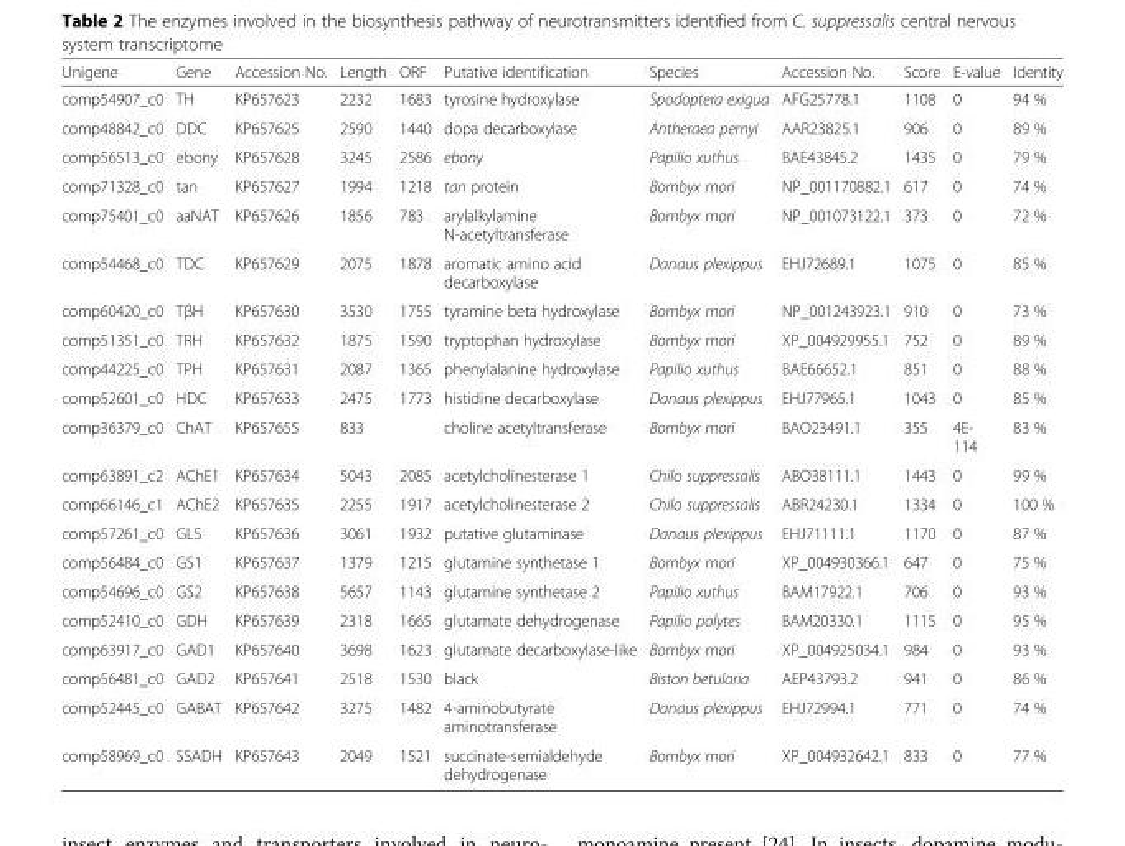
<table><thead><tr><td>Unigene</td><td>Gene</td><td>Accession No.</td><td>Length</td><td>ORF</td><td>Putative identification</td><td>Species</td><td>Accession No.</td><td>Score</td><td>E-value</td><td>Identity</td></tr></thead><tbody><tr><td>comp54907_c0</td><td>TH</td><td>KP657623</td><td>2232</td><td>1683</td><td>tyrosine hydroxylase</td><td>Spodoptera exigua</td><td>AFG25778.1</td><td>1108</td><td>0</td><td>94 %</td></tr><tr><td>comp48842_c0</td><td>DDC</td><td>KP657625</td><td>2590</td><td>1440</td><td>dopa decarboxylase</td><td>Antheraea pernyi</td><td>AAR23825.1</td><td>906</td><td>0</td><td>89 %</td></tr><tr><td>comp56513_c0</td><td>ebony</td><td>KP657628</td><td>3245</td><td>2586</td><td>ebony</td><td>Papilio xuthus</td><td>BAE43845.2</td><td>1435</td><td>0</td><td>79 %</td></tr><tr><td>comp71328_c0</td><td>tan</td><td>KP657627</td><td>1994</td><td>1218</td><td>tan protein</td><td>Bombyx mori</td><td>NP_001170882.1</td><td>617</td><td>0</td><td>74 %</td></tr><tr><td>comp75401_c0</td><td>aaNAT</td><td>KP657626</td><td>1856</td><td>783</td><td>arylalkylamine N-acetyltransferase</td><td>Bombyx mori</td><td>NP_001073122.1</td><td>373</td><td>0</td><td>72 %</td></tr><tr><td>comp54468_c0</td><td>TDC</td><td>KP657629</td><td>2075</td><td>1878</td><td>aromatic amino acid decarboxylase</td><td>Danaus plexippus</td><td>EHJ72689.1</td><td>1075</td><td>0</td><td>85 %</td></tr><tr><td>comp60420_c0</td><td>TβH</td><td>KP657630</td><td>3530</td><td>1755</td><td>tyramine beta hydroxylase</td><td>Bombyx mori</td><td>NP_001243923.1</td><td>910</td><td>0</td><td>73 %</td></tr><tr><td>comp51351_c0</td><td>TRH</td><td>KP657632</td><td>1875</td><td>1590</td><td>tryptophan hydroxylase</td><td>Bombyx mori</td><td>XP_004929955.1</td><td>752</td><td>0</td><td>89 %</td></tr><tr><td>comp44225_c0</td><td>TPH</td><td>KP657631</td><td>2087</td><td>1365</td><td>phenylalanine hydroxylase</td><td>Papilio xuthus</td><td>BAE66652.1</td><td>851</td><td>0</td><td>88 %</td></tr><tr><td>comp52601_c0</td><td>HDC</td><td>KP657633</td><td>2475</td><td>1773</td><td>histidine decarboxylase</td><td>Danaus plexippus</td><td>EHJ77965.1</td><td>1043</td><td>0</td><td>85 %</td></tr><tr><td>comp36379_c0</td><td>ChAT</td><td>KP657655</td><td>833</td><td></td><td>choline acetyltransferase</td><td>Bombyx mori</td><td>BAO23491.1</td><td>355</td><td>4E- 114</td><td>83 %</td></tr><tr><td>comp63891_c2</td><td>AChE1</td><td>KP657634</td><td>5043</td><td>2085</td><td>acetylcholinesterase 1</td><td>Chilo suppressalis</td><td>ABO38111.1</td><td>1443</td><td>0</td><td>99 %</td></tr><tr><td>comp66146_c1</td><td>AChE2</td><td>KP657635</td><td>2255</td><td>1917</td><td>acetylcholinesterase 2</td><td>Chilo suppressalis</td><td>ABR24230.1</td><td>1334</td><td>0</td><td>100 %</td></tr><tr><td>comp57261_c0</td><td>GLS</td><td>KP657636</td><td>3061</td><td>1932</td><td>putative glutaminase</td><td>Danaus plexippus</td><td>EHJ71111.1</td><td>1170</td><td>0</td><td>87 %</td></tr><tr><td>comp56484_c0</td><td>GS1</td><td>KP657637</td><td>1379</td><td>1215</td><td>glutamine synthetase 1</td><td>Bombyx mori</td><td>XP_004930366.1</td><td>647</td><td>0</td><td>75 %</td></tr><tr><td>comp54696_c0</td><td>GS2</td><td>KP657638</td><td>5657</td><td>1143</td><td>glutamine synthetase 2</td><td>Papilio xuthus</td><td>BAM17922.1</td><td>706</td><td>0</td><td>93 %</td></tr><tr><td>comp52410_c0</td><td>GDH</td><td>KP657639</td><td>2318</td><td>1665</td><td>glutamate dehydrogenase</td><td>Papilio polytes</td><td>BAM20330.1</td><td>1115</td><td>0</td><td>95 %</td></tr><tr><td>comp63917_c0</td><td>GAD1</td><td>KP657640</td><td>3698</td><td>1623</td><td>glutamate decarboxylase-like</td><td>Bombyx mori</td><td>XP_004925034.1</td><td>984</td><td>0</td><td>93 %</td></tr><tr><td>comp56481_c0</td><td>GAD2</td><td>KP657641</td><td>2518</td><td>1530</td><td>black</td><td>Biston betularia</td><td>AEP43793.2</td><td>941</td><td>0</td><td>86 %</td></tr><tr><td>comp52445_c0</td><td>GABAT</td><td>KP657642</td><td>3275</td><td>1482</td><td>4-aminobutyrate aminotransferase</td><td>Danaus plexippus</td><td>EHJ72994.1</td><td>771</td><td>0</td><td>74 %</td></tr><tr><td>comp58969_c0</td><td>SSADH</td><td>KP657643</td><td>2049</td><td>1521</td><td>succinate-semialdehyde dehydrogenase</td><td>Bombyx mori</td><td>XP_004932642.1</td><td>833</td><td>0</td><td>77 %</td></tr></tbody></table>